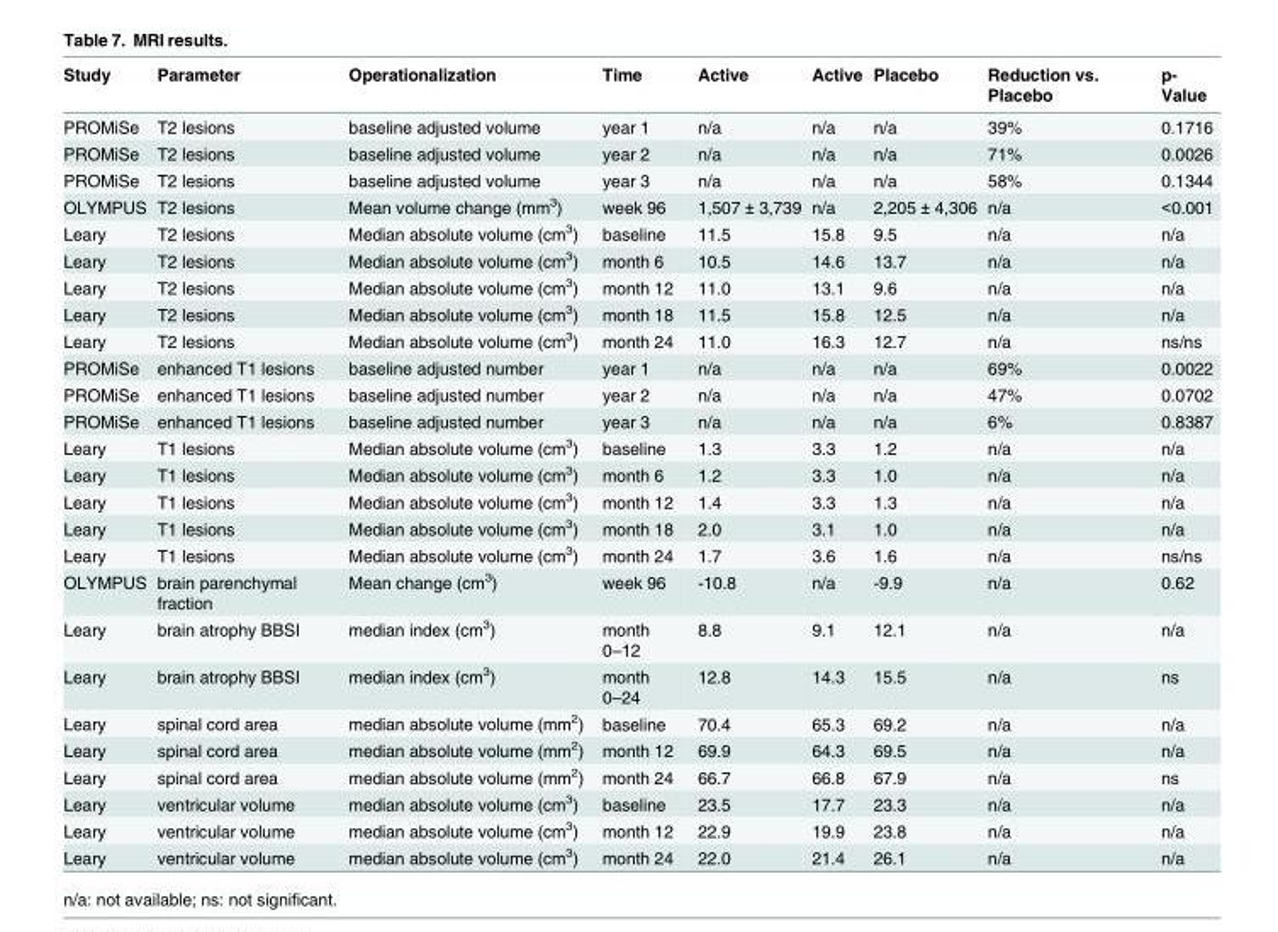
<table><thead><tr><td>Study</td><td>Parameter</td><td>Operationalization</td><td>Time</td><td>Active</td><td>Active</td><td>Placebo</td><td>Reduction vs. Placebo</td><td>p- Value</td></tr></thead><tbody><tr><td>PROMiSe</td><td>T2 lesions</td><td>baseline adjusted volume</td><td>year 1</td><td>n/a</td><td>n/a</td><td>n/a</td><td>39%</td><td>0.1716</td></tr><tr><td>PROMiSe</td><td>T2 lesions</td><td>baseline adjusted volume</td><td>year 2</td><td>n/a</td><td>n/a</td><td>n/a</td><td>71%</td><td>0.0026</td></tr><tr><td>PROMiSe</td><td>T2 lesions</td><td>baseline adjusted volume</td><td>year 3</td><td>n/a</td><td>n/a</td><td>n/a</td><td>58%</td><td>0.1344</td></tr><tr><td>OLYMPUS</td><td>T2 lesions</td><td>Mean volume change (mm<sup>3</sup>)</td><td>week 96</td><td>1,507 ± 3,739</td><td>n/a</td><td>2,205 ± 4,306</td><td>n/a</td><td>&lt;0.001</td></tr><tr><td>Leary</td><td>T2 lesions</td><td>Median absolute volume (cm<sup>3</sup>)</td><td>baseline</td><td>11.5</td><td>15.8</td><td>9.5</td><td>n/a</td><td>n/a</td></tr><tr><td>Leary</td><td>T2 lesions</td><td>Median absolute volume (cm<sup>3</sup>)</td><td>month 6</td><td>10.5</td><td>14.6</td><td>13.7</td><td>n/a</td><td>n/a</td></tr><tr><td>Leary</td><td>T2 lesions</td><td>Median absolute volume (cm<sup>3</sup>)</td><td>month 12</td><td>11.0</td><td>13.1</td><td>9.6</td><td>n/a</td><td>n/a</td></tr><tr><td>Leary</td><td>T2 lesions</td><td>Median absolute volume (cm<sup>3</sup>)</td><td>month 18</td><td>11.5</td><td>15.8</td><td>12.5</td><td>n/a</td><td>n/a</td></tr><tr><td>Leary</td><td>T2 lesions</td><td>Median absolute volume (cm<sup>3</sup>)</td><td>month 24</td><td>11.0</td><td>16.3</td><td>12.7</td><td>n/a</td><td>ns/ns</td></tr><tr><td>PROMiSe</td><td>enhanced T1 lesions</td><td>baseline adjusted number</td><td>year 1</td><td>n/a</td><td>n/a</td><td>n/a</td><td>69%</td><td>0.0022</td></tr><tr><td>PROMiSe</td><td>enhanced T1 lesions</td><td>baseline adjusted number</td><td>year 2</td><td>n/a</td><td>n/a</td><td>n/a</td><td>47%</td><td>0.0702</td></tr><tr><td>PROMiSe</td><td>enhanced T1 lesions</td><td>baseline adjusted number</td><td>year 3</td><td>n/a</td><td>n/a</td><td>n/a</td><td>6%</td><td>0.8387</td></tr><tr><td>Leary</td><td>T1 lesions</td><td>Median absolute volume (cm<sup>3</sup>)</td><td>baseline</td><td>1.3</td><td>3.3</td><td>1.2</td><td>n/a</td><td>n/a</td></tr><tr><td>Leary</td><td>T1 lesions</td><td>Median absolute volume (cm<sup>3</sup>)</td><td>month 6</td><td>1.2</td><td>3.3</td><td>1.0</td><td>n/a</td><td>n/a</td></tr><tr><td>Leary</td><td>T1 lesions</td><td>Median absolute volume (cm<sup>3</sup>)</td><td>month 12</td><td>1.4</td><td>3.3</td><td>1.3</td><td>n/a</td><td>n/a</td></tr><tr><td>Leary</td><td>T1 lesions</td><td>Median absolute volume (cm<sup>3</sup>)</td><td>month 18</td><td>2.0</td><td>3.1</td><td>1.0</td><td>n/a</td><td>n/a</td></tr><tr><td>Leary</td><td>T1 lesions</td><td>Median absolute volume (cm<sup>3</sup>)</td><td>month 24</td><td>1.7</td><td>3.6</td><td>1.6</td><td>n/a</td><td>ns/ns</td></tr><tr><td>OLYMPUS</td><td>brain parenchymal fraction</td><td>Mean change (cm<sup>3</sup>)</td><td>week 96</td><td>-10.8</td><td>n/a</td><td>-9.9</td><td>n/a</td><td>0.62</td></tr><tr><td>Leary</td><td>brain atrophy BBSI</td><td>median index (cm<sup>3</sup>)</td><td>month 0–12</td><td>8.8</td><td>9.1</td><td>12.1</td><td>n/a</td><td>n/a</td></tr><tr><td>Leary</td><td>brain atrophy BBSI</td><td>median index (cm<sup>3</sup>)</td><td>month 0–24</td><td>12.8</td><td>14.3</td><td>15.5</td><td>n/a</td><td>ns</td></tr><tr><td>Leary</td><td>spinal cord area</td><td>median absolute volume (mm<sup>2</sup>)</td><td>baseline</td><td>70.4</td><td>65.3</td><td>69.2</td><td>n/a</td><td>n/a</td></tr><tr><td>Leary</td><td>spinal cord area</td><td>median absolute volume (mm<sup>2</sup>)</td><td>month 12</td><td>69.9</td><td>64.3</td><td>69.5</td><td>n/a</td><td>n/a</td></tr><tr><td>Leary</td><td>spinal cord area</td><td>median absolute volume (mm<sup>2</sup>)</td><td>month 24</td><td>66.7</td><td>66.8</td><td>67.9</td><td>n/a</td><td>ns</td></tr><tr><td>Leary</td><td>ventricular volume</td><td>median absolute volume (cm<sup>3</sup>)</td><td>baseline</td><td>23.5</td><td>17.7</td><td>23.3</td><td>n/a</td><td>n/a</td></tr><tr><td>Leary</td><td>ventricular volume</td><td>median absolute volume (cm<sup>3</sup>)</td><td>month 12</td><td>22.9</td><td>19.9</td><td>23.8</td><td>n/a</td><td>n/a</td></tr><tr><td>Leary</td><td>ventricular volume</td><td>median absolute volume (cm<sup>3</sup>)</td><td>month 24</td><td>22.0</td><td>21.4</td><td>26.1</td><td>n/a</td><td>n/a</td></tr></tbody></table>